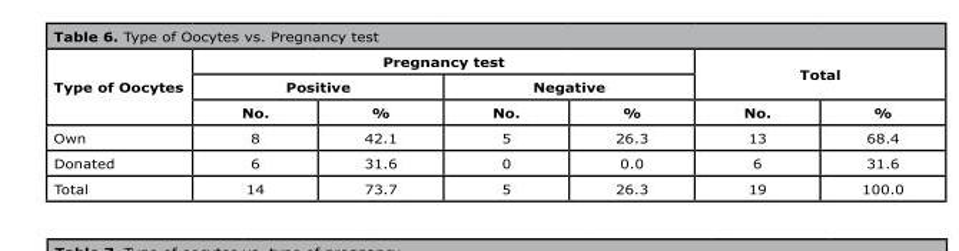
<table><thead><tr><td rowspan="3">Type of Oocytes</td><td colspan="4">Pregnancy test</td><td rowspan="2" colspan="2">Total</td></tr><tr><td colspan="2">Positive</td><td colspan="2">Negative</td></tr><tr><td>No.</td><td>%</td><td>No.</td><td>%</td><td>No.</td><td>%</td></tr></thead><tbody><tr><td>Own</td><td>8</td><td>42.1</td><td>5</td><td>26.3</td><td>13</td><td>68.4</td></tr><tr><td>Donated</td><td>6</td><td>31.6</td><td>0</td><td>0.0</td><td>6</td><td>31.6</td></tr><tr><td>Total</td><td>14</td><td>73.7</td><td>5</td><td>26.3</td><td>19</td><td>100.0</td></tr></tbody></table>